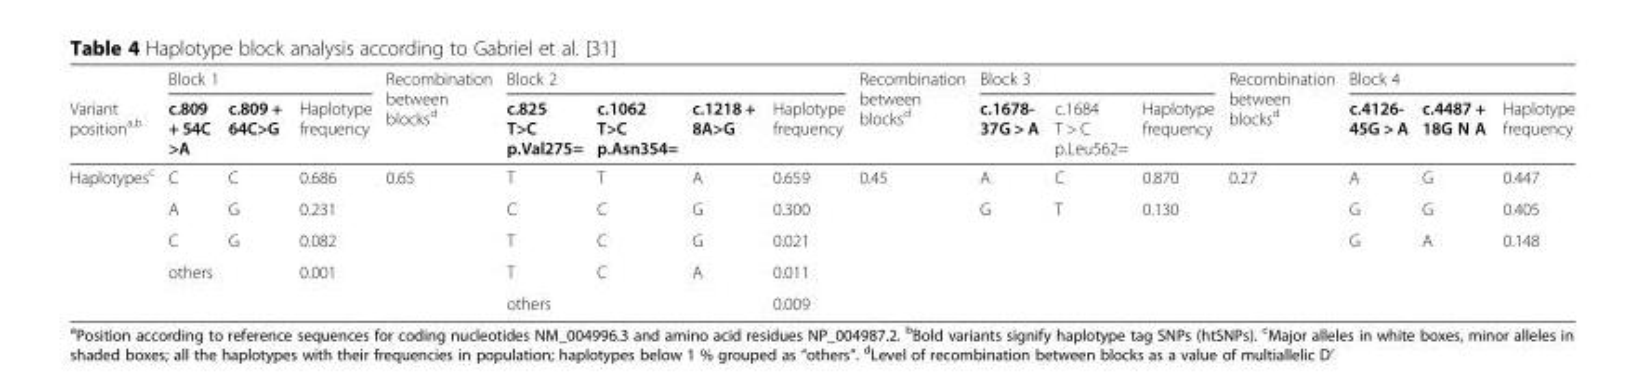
<table><thead><tr><td rowspan="2">Variant position<sup>a,b</sup></td><td colspan="3">Block 1</td><td rowspan="2">Recombination between blocks<sup>d</sup></td><td colspan="4">Block 2</td><td rowspan="2">Recombination between blocks<sup>d</sup></td><td colspan="3">Block 3</td><td rowspan="2">Recombination between blocks<sup>d</sup></td><td colspan="3">Block 4</td></tr><tr><td>c.809 + 54C &gt;A</td><td>c.809 + 64C&gt;G</td><td>Haplotype frequency</td><td>c.825 T&gt;C p.Val275=</td><td>c.1062 T&gt;C p.Asn354=</td><td>c.1218 + 8A&gt;G</td><td>Haplotype frequency</td><td>c.1678- 37G &gt; A</td><td>c.1684 T &gt; C p.Leu562=</td><td>Haplotype frequency</td><td>c.4126- 45G &gt; A</td><td>c.4487 + 18G N A</td><td>Haplotype frequency</td></tr></thead><tbody><tr><td rowspan="5">Haplotypes<sup>c</sup></td><td>C</td><td>C</td><td>0.686</td><td rowspan="5">0.65</td><td>T</td><td>T</td><td>A</td><td>0.659</td><td rowspan="5">0.45</td><td>A</td><td>C</td><td>0.870</td><td rowspan="5">0.27</td><td>A</td><td>G</td><td>0.447</td></tr><tr><td>A</td><td>G</td><td>0.231</td><td>C</td><td>C</td><td>G</td><td>0.300</td><td>G</td><td>T</td><td>0.130</td><td>G</td><td>G</td><td>0.405</td></tr><tr><td>C</td><td>G</td><td>0.082</td><td>T</td><td>C</td><td>G</td><td>0.021</td><td rowspan="3" colspan="3"></td><td>G</td><td>A</td><td>0.148</td></tr><tr><td colspan="2">others</td><td>0.001</td><td>T</td><td>C</td><td>A</td><td>0.011</td><td rowspan="2" colspan="3"></td></tr><tr><td colspan="3"></td><td colspan="3">others</td><td>0.009</td></tr></tbody></table>